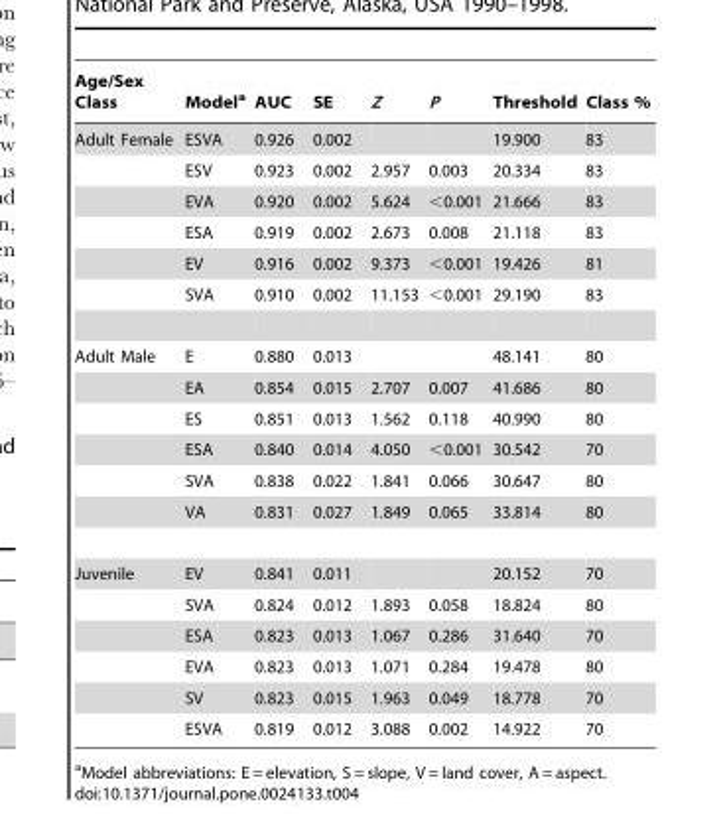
<table><thead><tr><td>Age/Sex Class</td><td>Model<sup>a</sup></td><td>AUC</td><td>SE</td><td>Z</td><td>P</td><td>Threshold</td><td>Class %</td></tr></thead><tbody><tr><td rowspan="6">Adult Female</td><td>ESVA</td><td>0.926</td><td>0.002</td><td></td><td></td><td>19.900</td><td>83</td></tr><tr><td>ESV</td><td>0.923</td><td>0.002</td><td>2.957</td><td>0.003</td><td>20.334</td><td>83</td></tr><tr><td>EVA</td><td>0.920</td><td>0.002</td><td>5.624</td><td>&lt;0.001</td><td>21.666</td><td>83</td></tr><tr><td>ESA</td><td>0.919</td><td>0.002</td><td>2.673</td><td>0.008</td><td>21.118</td><td>83</td></tr><tr><td>EV</td><td>0.916</td><td>0.002</td><td>9.373</td><td>&lt;0.001</td><td>19.426</td><td>81</td></tr><tr><td>SVA</td><td>0.910</td><td>0.002</td><td>11.153</td><td>&lt;0.001</td><td>29.190</td><td>83</td></tr><tr><td rowspan="6">Adult Male</td><td>E</td><td>0.880</td><td>0.013</td><td></td><td></td><td>48.141</td><td>80</td></tr><tr><td>EA</td><td>0.854</td><td>0.015</td><td>2.707</td><td>0.007</td><td>41.686</td><td>80</td></tr><tr><td>ES</td><td>0.851</td><td>0.013</td><td>1.562</td><td>0.118</td><td>40.990</td><td>80</td></tr><tr><td>ESA</td><td>0.840</td><td>0.014</td><td>4.050</td><td>&lt;0.001</td><td>30.542</td><td>70</td></tr><tr><td>SVA</td><td>0.838</td><td>0.022</td><td>1.841</td><td>0.066</td><td>30.647</td><td>80</td></tr><tr><td>VA</td><td>0.831</td><td>0.027</td><td>1.849</td><td>0.065</td><td>33.814</td><td>80</td></tr><tr><td rowspan="6">Juvenile</td><td>EV</td><td>0.841</td><td>0.011</td><td></td><td></td><td>20.152</td><td>70</td></tr><tr><td>SVA</td><td>0.824</td><td>0.012</td><td>1.893</td><td>0.058</td><td>18.824</td><td>80</td></tr><tr><td>ESA</td><td>0.823</td><td>0.013</td><td>1.067</td><td>0.286</td><td>31.640</td><td>70</td></tr><tr><td>EVA</td><td>0.823</td><td>0.013</td><td>1.071</td><td>0.284</td><td>19.478</td><td>80</td></tr><tr><td>SV</td><td>0.823</td><td>0.015</td><td>1.963</td><td>0.049</td><td>18.778</td><td>70</td></tr><tr><td>ESVA</td><td>0.819</td><td>0.012</td><td>3.088</td><td>0.002</td><td>14.922</td><td>70</td></tr></tbody></table>